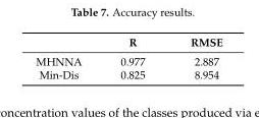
<table><thead><tr><td></td><td>R</td><td>RMSE</td></tr></thead><tbody><tr><td>MHNNA</td><td>0.977</td><td>2.887</td></tr><tr><td>Min-Dis</td><td>0.825</td><td>8.954</td></tr></tbody></table>